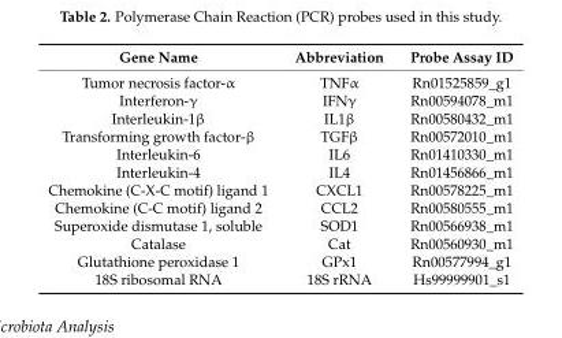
<table><thead><tr><td>Gene Name</td><td>Abbreviation</td><td>Probe Assay ID</td></tr></thead><tbody><tr><td>Tumor necrosis factor-α</td><td>TNFα</td><td>Rn01525859_g1</td></tr><tr><td>Interferon-γ</td><td>IFNγ</td><td>Rn00594078_m1</td></tr><tr><td>Interleukin-1β</td><td>IL1β</td><td>Rn00580432_m1</td></tr><tr><td>Transforming growth factor-β</td><td>TGFβ</td><td>Rn00572010_m1</td></tr><tr><td>Interleukin-6</td><td>IL6</td><td>Rn01410330_m1</td></tr><tr><td>Interleukin-4</td><td>IL4</td><td>Rn01456866_m1</td></tr><tr><td>Chemokine (C-X-C motif) ligand 1</td><td>CXCL1</td><td>Rn00578225_m1</td></tr><tr><td>Chemokine (C-C motif) ligand 2</td><td>CCL2</td><td>Rn00580555_m1</td></tr><tr><td>Superoxide dismutase 1, soluble</td><td>SOD1</td><td>Rn00566938_m1</td></tr><tr><td>Catalase</td><td>Cat</td><td>Rn00560930_m1</td></tr><tr><td>Glutathione peroxidase 1</td><td>GPx1</td><td>Rn00577994_g1</td></tr><tr><td>18S ribosomal RNA</td><td>18S rRNA</td><td>Hs99999901_s1</td></tr></tbody></table>